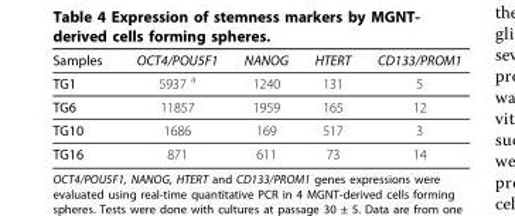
<table><thead><tr><td>Samples</td><td>OCT4/POU5F1</td><td>NANOG</td><td>HTERT</td><td>CD133/PROM1</td></tr></thead><tbody><tr><td>TG1</td><td>5937 <sup>a</sup></td><td>1240</td><td>131</td><td>5</td></tr><tr><td>TG6</td><td>11857</td><td>1959</td><td>165</td><td>12</td></tr><tr><td>TG10</td><td>1686</td><td>169</td><td>517</td><td>3</td></tr><tr><td>TG16</td><td>871</td><td>611</td><td>73</td><td>14</td></tr></tbody></table>